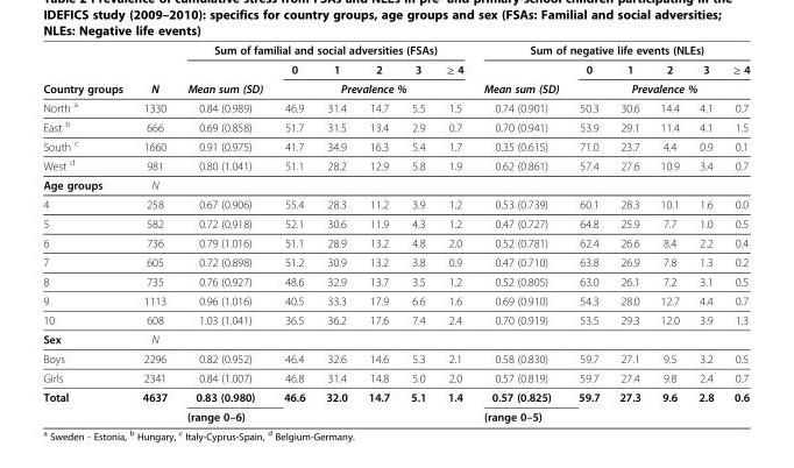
<table><thead><tr><td rowspan="3">Country groups</td><td rowspan="3">N</td><td colspan="6">Sum of familial and social adversities (FSAs)</td><td colspan="6">Sum of negative life events (NLEs)</td></tr><tr><td rowspan="2">Mean sum (SD)</td><td>0</td><td>1</td><td>2</td><td>3</td><td>≥ 4</td><td rowspan="2">Mean sum (SD)</td><td>0</td><td>1</td><td>2</td><td>3</td><td>≥ 4</td></tr><tr><td colspan="5">Prevalence %</td><td colspan="5">Prevalence %</td></tr></thead><tbody><tr><td>North <sup>a</sup></td><td>1330</td><td>0.84 (0.989)</td><td>46.9</td><td>31.4</td><td>14.7</td><td>5.5</td><td>1.5</td><td>0.74 (0.901)</td><td>50.3</td><td>30.6</td><td>14.4</td><td>4.1</td><td>0.7</td></tr><tr><td>East <sup>b</sup></td><td>666</td><td>0.69 (0.858)</td><td>51.7</td><td>31.5</td><td>13.4</td><td>2.9</td><td>0.7</td><td>0.70 (0.941)</td><td>53.9</td><td>29.1</td><td>11.4</td><td>4.1</td><td>1.5</td></tr><tr><td>South <sup>c</sup></td><td>1660</td><td>0.91 (0.975)</td><td>41.7</td><td>34.9</td><td>16.3</td><td>5.4</td><td>1.7</td><td>0.35 (0.615)</td><td>71.0</td><td>23.7</td><td>4.4</td><td>0.9</td><td>0.1</td></tr><tr><td>West <sup>d</sup></td><td>981</td><td>0.80 (1.041)</td><td>51.1</td><td>28.2</td><td>12.9</td><td>5.8</td><td>1.9</td><td>0.62 (0.861)</td><td>57.4</td><td>27.6</td><td>10.9</td><td>3.4</td><td>0.7</td></tr><tr><td>Age groups</td><td>N</td><td></td><td colspan="5"></td><td></td><td colspan="5"></td></tr><tr><td>4</td><td>258</td><td>0.67 (0.906)</td><td>55.4</td><td>28.3</td><td>11.2</td><td>3.9</td><td>1.2</td><td>0.53 (0.739)</td><td>60.1</td><td>28.3</td><td>10.1</td><td>1.6</td><td>0.0</td></tr><tr><td>5</td><td>582</td><td>0.72 (0.918)</td><td>52.1</td><td>30.6</td><td>11.9</td><td>4.3</td><td>1.2</td><td>0.47 (0.727)</td><td>64.8</td><td>25.9</td><td>7.7</td><td>1.0</td><td>0.5</td></tr><tr><td>6</td><td>736</td><td>0.79 (1.016)</td><td>51.1</td><td>28.9</td><td>13.2</td><td>4.8</td><td>2.0</td><td>0.52 (0.781)</td><td>62.4</td><td>26.6</td><td>8.4</td><td>2.2</td><td>0.4</td></tr><tr><td>7</td><td>605</td><td>0.72 (0.898)</td><td>51.2</td><td>30.9</td><td>13.2</td><td>3.8</td><td>0.9</td><td>0.47 (0.710)</td><td>63.8</td><td>26.9</td><td>7.8</td><td>1.3</td><td>0.2</td></tr><tr><td>8</td><td>735</td><td>0.76 (0.927)</td><td>48.6</td><td>32.9</td><td>13.7</td><td>3.5</td><td>1.2</td><td>0.52 (0.805)</td><td>63.0</td><td>26.1</td><td>7.2</td><td>3.1</td><td>0.5</td></tr><tr><td>9</td><td>1113</td><td>0.96 (1.016)</td><td>40.5</td><td>33.3</td><td>17.9</td><td>6.6</td><td>1.6</td><td>0.69 (0.910)</td><td>54.3</td><td>28.0</td><td>12.7</td><td>4.4</td><td>0.7</td></tr><tr><td>10</td><td>608</td><td>1.03 (1.041)</td><td>36.5</td><td>36.2</td><td>17.6</td><td>7.4</td><td>2.4</td><td>0.70 (0.919)</td><td>53.5</td><td>29.3</td><td>12.0</td><td>3.9</td><td>1.3</td></tr><tr><td>Sex</td><td>N</td><td></td><td></td><td></td><td></td><td></td><td></td><td></td><td></td><td></td><td></td><td></td><td></td></tr><tr><td>Boys</td><td>2296</td><td>0.82 (0.952)</td><td>46.4</td><td>32.6</td><td>14.6</td><td>5.3</td><td>2.1</td><td>0.58 (0.830)</td><td>59.7</td><td>27.1</td><td>9.5</td><td>3.2</td><td>0.5</td></tr><tr><td>Girls</td><td>2341</td><td>0.84 (1.007)</td><td>46.8</td><td>31.4</td><td>14.8</td><td>5.0</td><td>2.0</td><td>0.57 (0.819)</td><td>59.7</td><td>27.4</td><td>9.8</td><td>2.4</td><td>0.7</td></tr><tr><td rowspan="2">Total</td><td rowspan="2">4637</td><td>0.83 (0.980)</td><td rowspan="2">46.6</td><td rowspan="2">32.0</td><td rowspan="2">14.7</td><td rowspan="2">5.1</td><td rowspan="2">1.4</td><td>0.57 (0.825)</td><td rowspan="2">59.7</td><td rowspan="2">27.3</td><td rowspan="2">9.6</td><td rowspan="2">2.8</td><td rowspan="2">0.6</td></tr><tr><td>(range 0–6)</td><td>(range 0–5)</td></tr></tbody></table>